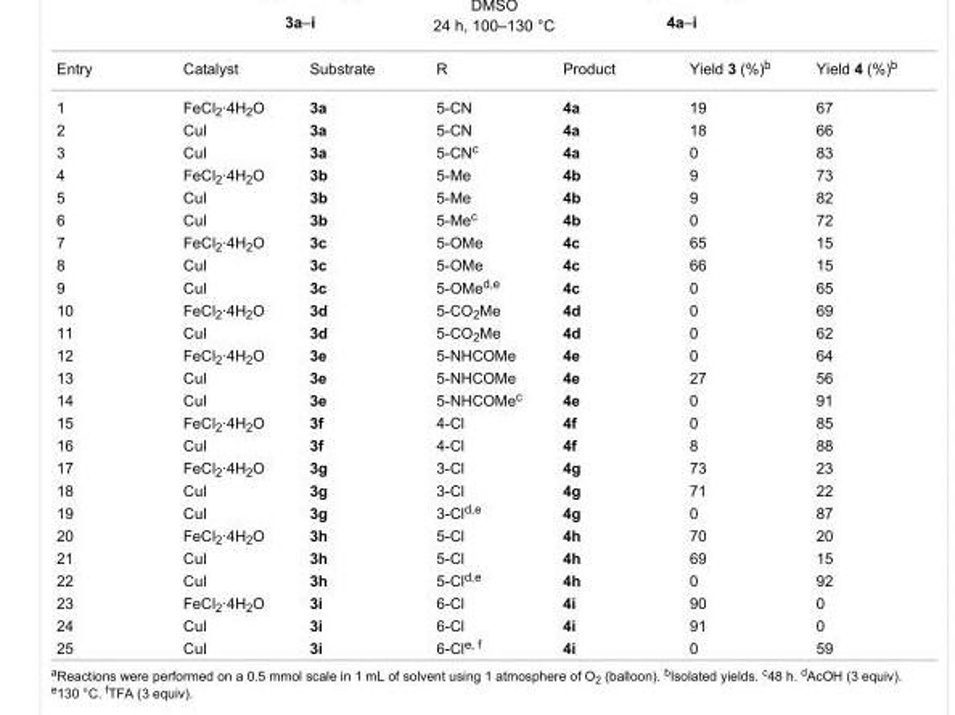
<table><tbody><tr><td>Entry</td><td>Catalyst</td><td>Substrate</td><td>R</td><td>Product</td><td>Yield 3 (%)<sup>b</sup></td><td>Yield 4 (%)<sup>b</sup></td></tr><tr><td>1</td><td>FeCl<sub>2</sub>·4H<sub>2</sub>O</td><td>3a</td><td>5-CN</td><td>4a</td><td>19</td><td>67</td></tr><tr><td>2</td><td>CuI</td><td>3a</td><td>5-CN</td><td>4a</td><td>18</td><td>66</td></tr><tr><td>3</td><td>CuI</td><td>3a</td><td>5-CN<sup>c</sup></td><td>4a</td><td>0</td><td>83</td></tr><tr><td>4</td><td>FeCl<sub>2</sub>·4H<sub>2</sub>O</td><td>3b</td><td>5-Me</td><td>4b</td><td>9</td><td>73</td></tr><tr><td>5</td><td>CuI</td><td>3b</td><td>5-Me</td><td>4b</td><td>9</td><td>82</td></tr><tr><td>6</td><td>CuI</td><td>3b</td><td>5-Me<sup>c</sup></td><td>4b</td><td>0</td><td>72</td></tr><tr><td>7</td><td>FeCl<sub>2</sub>·4H<sub>2</sub>O</td><td>3c</td><td>5-OMe</td><td>4c</td><td>65</td><td>15</td></tr><tr><td>8</td><td>CuI</td><td>3c</td><td>5-OMe</td><td>4c</td><td>66</td><td>15</td></tr><tr><td>9</td><td>CuI</td><td>3c</td><td>5-OMe<sup>d,e</sup></td><td>4c</td><td>0</td><td>65</td></tr><tr><td>10</td><td>FeCl<sub>2</sub>·4H<sub>2</sub>O</td><td>3d</td><td>5-CO<sub>2</sub>Me</td><td>4d</td><td>0</td><td>69</td></tr><tr><td>11</td><td>CuI</td><td>3d</td><td>5-CO<sub>2</sub>Me</td><td>4d</td><td>0</td><td>62</td></tr><tr><td>12</td><td>FeCl<sub>2</sub>·4H<sub>2</sub>O</td><td>3e</td><td>5-NHCOMe</td><td>4e</td><td>0</td><td>64</td></tr><tr><td>13</td><td>CuI</td><td>3e</td><td>5-NHCOMe</td><td>4e</td><td>27</td><td>56</td></tr><tr><td>14</td><td>CuI</td><td>3e</td><td>5-NHCOMe<sup>c</sup></td><td>4e</td><td>0</td><td>91</td></tr><tr><td>15</td><td>FeCl<sub>2</sub>·4H<sub>2</sub>O</td><td>3f</td><td>4-Cl</td><td>4f</td><td>0</td><td>85</td></tr><tr><td>16</td><td>CuI</td><td>3f</td><td>4-Cl</td><td>4f</td><td>8</td><td>88</td></tr><tr><td>17</td><td>FeCl<sub>2</sub>·4H<sub>2</sub>O</td><td>3g</td><td>3-Cl</td><td>4g</td><td>73</td><td>23</td></tr><tr><td>18</td><td>CuI</td><td>3g</td><td>3-Cl</td><td>4g</td><td>71</td><td>22</td></tr><tr><td>19</td><td>CuI</td><td>3g</td><td>3-Cl<sup>d,e</sup></td><td>4g</td><td>0</td><td>87</td></tr><tr><td>20</td><td>FeCl<sub>2</sub>·4H<sub>2</sub>O</td><td>3h</td><td>5-Cl</td><td>4h</td><td>70</td><td>20</td></tr><tr><td>21</td><td>CuI</td><td>3h</td><td>5-Cl</td><td>4h</td><td>69</td><td>15</td></tr><tr><td>22</td><td>CuI</td><td>3h</td><td>5-Cl<sup>d,e</sup></td><td>4h</td><td>0</td><td>92</td></tr><tr><td>23</td><td>FeCl<sub>2</sub>·4H<sub>2</sub>O</td><td>3i</td><td>6-Cl</td><td>4i</td><td>90</td><td>0</td></tr><tr><td>24</td><td>CuI</td><td>3i</td><td>6-Cl</td><td>4i</td><td>91</td><td>0</td></tr><tr><td>25</td><td>CuI</td><td>3i</td><td>6-Cl<sup>e, f</sup></td><td>4i</td><td>0</td><td>59</td></tr></tbody></table>